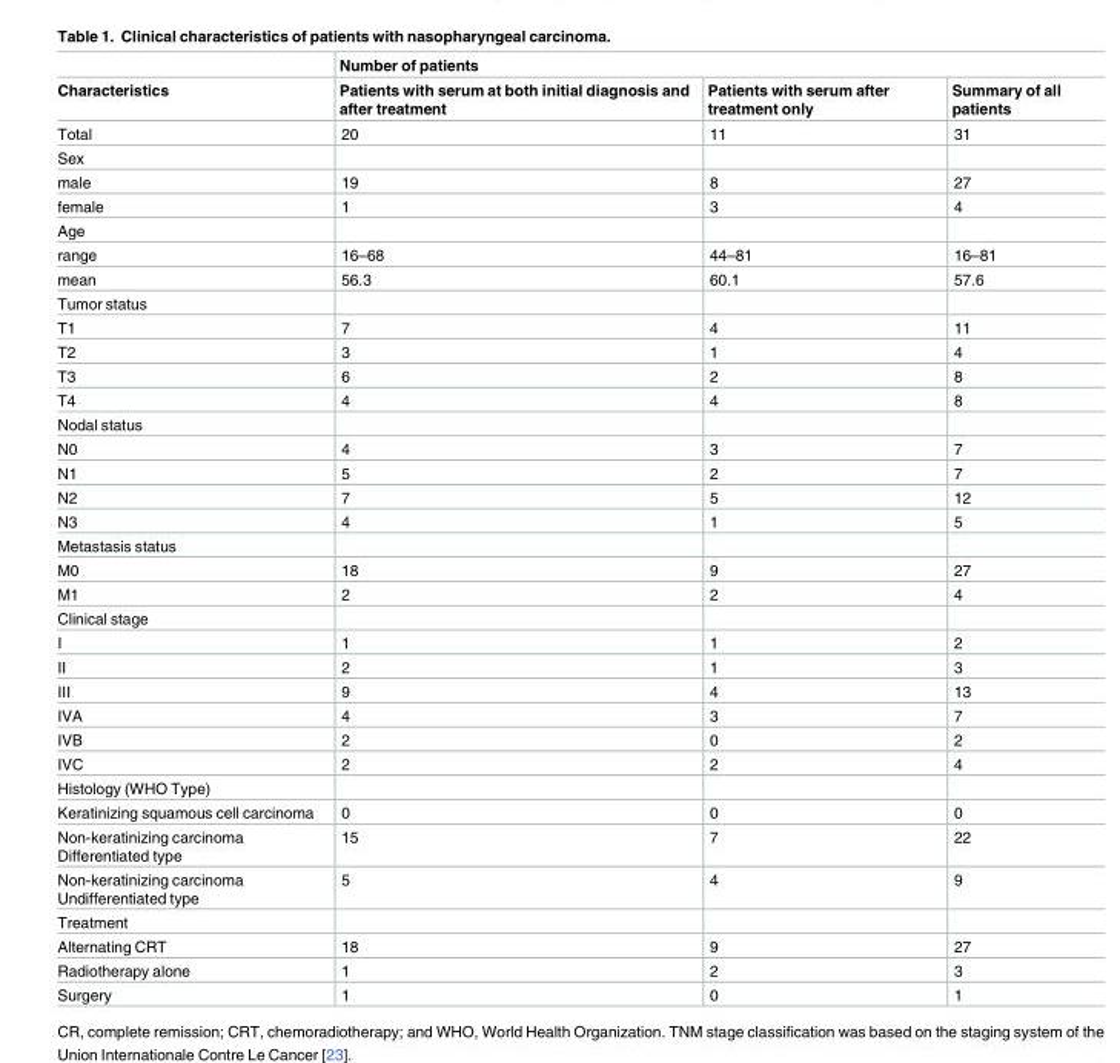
<table><thead><tr><td rowspan="2">Characteristics</td><td colspan="3">Number of patients</td></tr><tr><td>Patients with serum at both initial diagnosis and after treatment</td><td>Patients with serum after treatment only</td><td>Summary of all patients</td></tr></thead><tbody><tr><td>Total</td><td>20</td><td>11</td><td>31</td></tr><tr><td colspan="4">Sex</td></tr><tr><td>male</td><td>19</td><td>8</td><td>27</td></tr><tr><td>female</td><td>1</td><td>3</td><td>4</td></tr><tr><td colspan="4">Age</td></tr><tr><td>range</td><td>16–68</td><td>44–81</td><td>16–81</td></tr><tr><td>mean</td><td>56.3</td><td>60.1</td><td>57.6</td></tr><tr><td colspan="4">Tumor status</td></tr><tr><td>T1</td><td>7</td><td>4</td><td>11</td></tr><tr><td>T2</td><td>3</td><td>1</td><td>4</td></tr><tr><td>T3</td><td>6</td><td>2</td><td>8</td></tr><tr><td>T4</td><td>4</td><td>4</td><td>8</td></tr><tr><td colspan="4">Nodal status</td></tr><tr><td>N0</td><td>4</td><td>3</td><td>7</td></tr><tr><td>N1</td><td>5</td><td>2</td><td>7</td></tr><tr><td>N2</td><td>7</td><td>5</td><td>12</td></tr><tr><td>N3</td><td>4</td><td>1</td><td>5</td></tr><tr><td colspan="4">Metastasis status</td></tr><tr><td>M0</td><td>18</td><td>9</td><td>27</td></tr><tr><td>M1</td><td>2</td><td>2</td><td>4</td></tr><tr><td colspan="4">Clinical stage</td></tr><tr><td>I</td><td>1</td><td>1</td><td>2</td></tr><tr><td>II</td><td>2</td><td>1</td><td>3</td></tr><tr><td>III</td><td>9</td><td>4</td><td>13</td></tr><tr><td>IVA</td><td>4</td><td>3</td><td>7</td></tr><tr><td>IVB</td><td>2</td><td>0</td><td>2</td></tr><tr><td>IVC</td><td>2</td><td>2</td><td>4</td></tr><tr><td colspan="4">Histology (WHO Type)</td></tr><tr><td>Keratinizing squamous cell carcinoma</td><td>0</td><td>0</td><td>0</td></tr><tr><td>Non-keratinizing carcinoma Differentiated type</td><td>15</td><td>7</td><td>22</td></tr><tr><td>Non-keratinizing carcinoma Undifferentiated type</td><td>5</td><td>4</td><td>9</td></tr><tr><td colspan="4">Treatment</td></tr><tr><td>Alternating CRT</td><td>18</td><td>9</td><td>27</td></tr><tr><td>Radiotherapy alone</td><td>1</td><td>2</td><td>3</td></tr><tr><td>Surgery</td><td>1</td><td>0</td><td>1</td></tr></tbody></table>